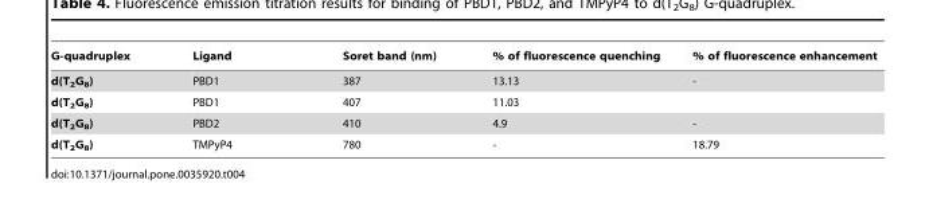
<table><thead><tr><td>G-quadruplex</td><td>Ligand</td><td>Soret band (nm)</td><td>% of fluorescence quenching</td><td>% of fluorescence enhancement</td></tr></thead><tbody><tr><td>d(T<sub>2</sub>G<sub>8</sub>)</td><td>PBD1</td><td>387</td><td>13.13</td><td>-</td></tr><tr><td>d(T<sub>2</sub>G<sub>8</sub>)</td><td>PBD1</td><td>407</td><td>11.03</td><td></td></tr><tr><td>d(T<sub>2</sub>G<sub>8</sub>)</td><td>PBD2</td><td>410</td><td>4.9</td><td>-</td></tr><tr><td>d(T<sub>2</sub>G<sub>8</sub>)</td><td>TMPyP4</td><td>780</td><td>-</td><td>18.79</td></tr></tbody></table>